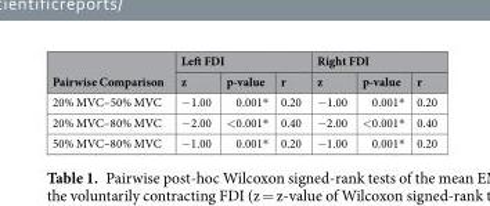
<table><thead><tr><td rowspan="2">Pairwise Comparison</td><td colspan="3">Left FDI</td><td colspan="3">Right FDI</td></tr><tr><td>z</td><td>p-value</td><td>r</td><td>z</td><td>p-value</td><td>r</td></tr></thead><tbody><tr><td>20% MVC–50% MVC</td><td>−1.00</td><td>0.001*</td><td>0.20</td><td>−1.00</td><td>0.001*</td><td>0.20</td></tr><tr><td>20% MVC–80% MVC</td><td>−2.00</td><td>&lt;0.001*</td><td>0.40</td><td>−2.00</td><td>&lt;0.001*</td><td>0.40</td></tr><tr><td>50% MVC–80% MVC</td><td>−1.00</td><td>0.001*</td><td>0.20</td><td>−1.00</td><td>0.001*</td><td>0.20</td></tr></tbody></table>